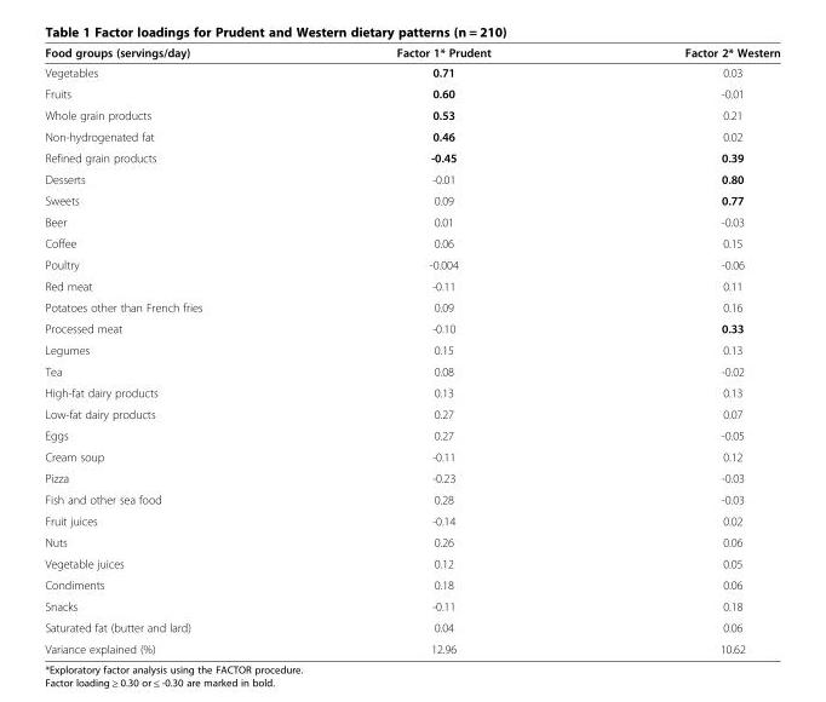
<table><thead><tr><td>Food groups (servings/day)</td><td>Factor 1* Prudent</td><td>Factor 2* Western</td></tr></thead><tbody><tr><td>Vegetables</td><td>0.71</td><td>0.03</td></tr><tr><td>Fruits</td><td>0.60</td><td>-0.01</td></tr><tr><td>Whole grain products</td><td>0.53</td><td>0.21</td></tr><tr><td>Non-hydrogenated fat</td><td>0.46</td><td>0.02</td></tr><tr><td>Refined grain products</td><td>-0.45</td><td>0.39</td></tr><tr><td>Desserts</td><td>-0.01</td><td>0.80</td></tr><tr><td>Sweets</td><td>0.09</td><td>0.77</td></tr><tr><td>Beer</td><td>0.01</td><td>-0.03</td></tr><tr><td>Coffee</td><td>0.06</td><td>0.15</td></tr><tr><td>Poultry</td><td>-0.004</td><td>-0.06</td></tr><tr><td>Red meat</td><td>-0.11</td><td>0.11</td></tr><tr><td>Potatoes other than French fries</td><td>0.09</td><td>0.16</td></tr><tr><td>Processed meat</td><td>-0.10</td><td>0.33</td></tr><tr><td>Legumes</td><td>0.15</td><td>0.13</td></tr><tr><td>Tea</td><td>0.08</td><td>-0.02</td></tr><tr><td>High-fat dairy products</td><td>0.13</td><td>0.13</td></tr><tr><td>Low-fat dairy products</td><td>0.27</td><td>0.07</td></tr><tr><td>Eggs</td><td>0.27</td><td>-0.05</td></tr><tr><td>Cream soup</td><td>-0.11</td><td>0.12</td></tr><tr><td>Pizza</td><td>-0.23</td><td>-0.03</td></tr><tr><td>Fish and other sea food</td><td>0.28</td><td>-0.03</td></tr><tr><td>Fruit juices</td><td>-0.14</td><td>0.02</td></tr><tr><td>Nuts</td><td>0.26</td><td>0.06</td></tr><tr><td>Vegetable juices</td><td>0.12</td><td>0.05</td></tr><tr><td>Condiments</td><td>0.18</td><td>0.06</td></tr><tr><td>Snacks</td><td>-0.11</td><td>0.18</td></tr><tr><td>Saturated fat (butter and lard)</td><td>0.04</td><td>0.06</td></tr><tr><td>Variance explained (%)</td><td>12.96</td><td>10.62</td></tr></tbody></table>